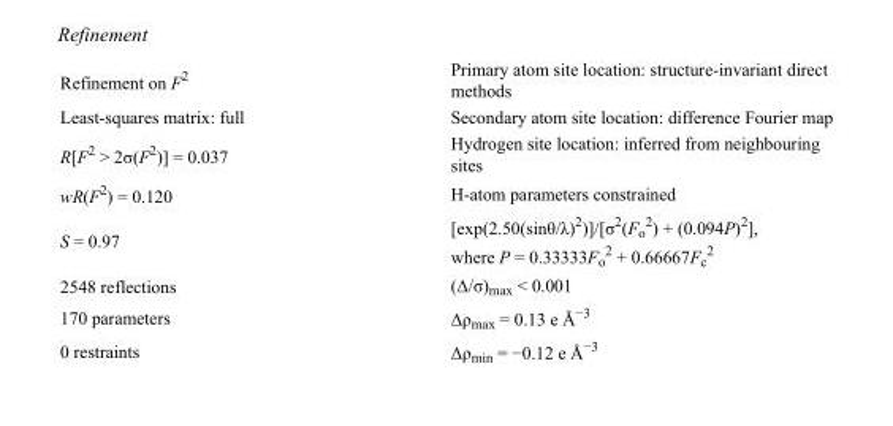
<table><tbody><tr><td>Refinement on F<sup>2</sup></td><td>Primary atom site location: structure-invariant direct methods</td></tr><tr><td>Least-squares matrix: full</td><td>Secondary atom site location: difference Fourier map</td></tr><tr><td>R[F<sup>2</sup> &gt; 2σ(F<sup>2</sup>)] = 0.037</td><td>Hydrogen site location: inferred from neighbouring sites</td></tr><tr><td>wR(F<sup>2</sup>) = 0.120</td><td>H-atom parameters constrained</td></tr><tr><td>S = 0.97</td><td>[exp(2.50(sinθ/λ)<sup>2</sup>)]/[σ<sup>2</sup>(F<sub>o</sub> <sup>2</sup>) + (0.094P)<sup>2</sup>], where P = 0.33333F<sub>o</sub> <sup>2</sup> + 0.66667F<sub>c</sub> <sup>2</sup></td></tr><tr><td>2548 reflections</td><td>(Δ/σ)<sub>max</sub> &lt; 0.001</td></tr><tr><td>170 parameters</td><td>Δρ<sub>max</sub> = 0.13 e Å<sup>−3</sup></td></tr><tr><td>0 restraints</td><td>Δρ<sub>min</sub> = −0.12 e Å<sup>−3</sup></td></tr></tbody></table>